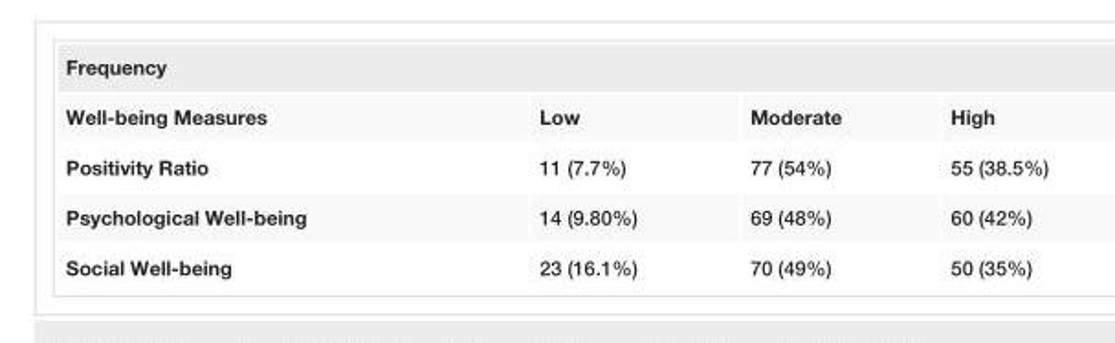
<table><tbody><tr><td colspan="4">Frequency</td></tr><tr><td>Well-being Measures</td><td>Low</td><td>Moderate</td><td>High</td></tr><tr><td>Positivity Ratio</td><td>11 (7.7%)</td><td>77 (54%)</td><td>55 (38.5%)</td></tr><tr><td>Psychological Well-being</td><td>14 (9.80%)</td><td>69 (48%)</td><td>60 (42%)</td></tr><tr><td>Social Well-being</td><td>23 (16.1%)</td><td>70 (49%)</td><td>50 (35%)</td></tr></tbody></table>